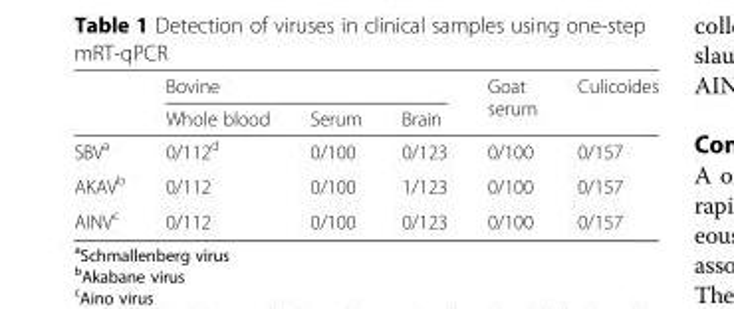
<table><thead><tr><td rowspan="2"></td><td colspan="3">Bovine</td><td rowspan="2">Goat serum</td><td rowspan="2">Culicoides</td></tr><tr><td>Whole blood</td><td>Serum</td><td>Brain</td></tr></thead><tbody><tr><td>SBV<sup>a</sup></td><td>0/112<sup>d</sup></td><td>0/100</td><td>0/123</td><td>0/100</td><td>0/157</td></tr><tr><td>AKAV<sup>b</sup></td><td>0/112</td><td>0/100</td><td>1/123</td><td>0/100</td><td>0/157</td></tr><tr><td>AINV<sup>c</sup></td><td>0/112</td><td>0/100</td><td>0/123</td><td>0/100</td><td>0/157</td></tr></tbody></table>